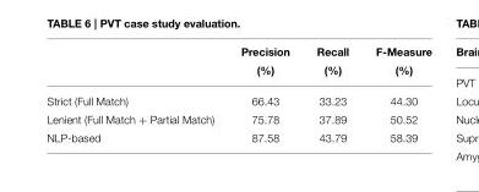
<table><thead><tr><td></td><td>Precision (%)</td><td>Recall (%)</td><td>F-Measure (%)</td></tr></thead><tbody><tr><td>Strict (Full Match)</td><td>66.43</td><td>33.23</td><td>44.30</td></tr><tr><td>Lenient (Full Match + Partial Match)</td><td>75.78</td><td>37.89</td><td>50.52</td></tr><tr><td>NLP-based</td><td>87.58</td><td>43.79</td><td>58.39</td></tr></tbody></table>